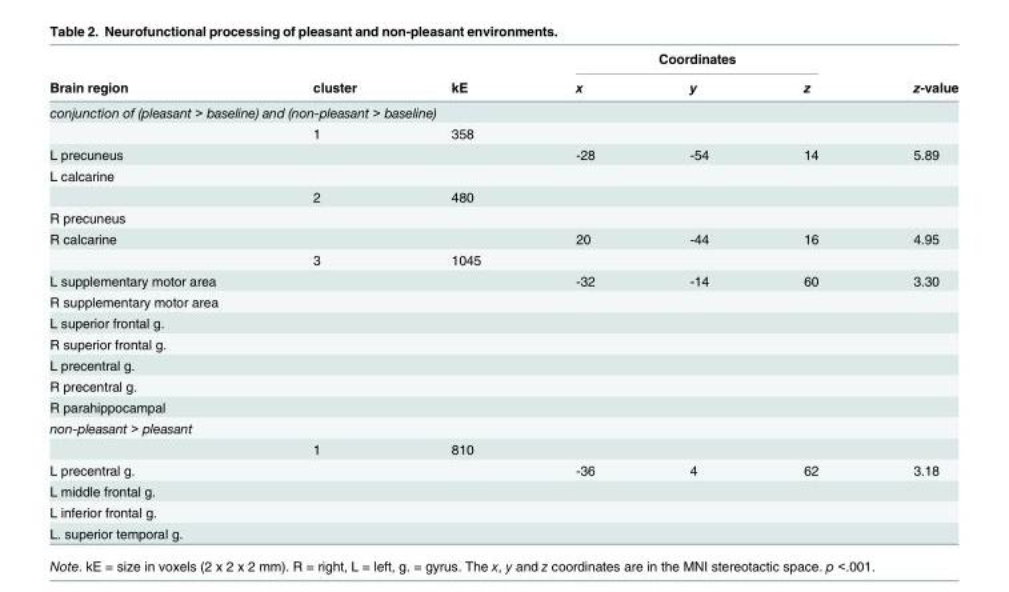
<table><thead><tr><td rowspan="2">Brain region</td><td rowspan="2">cluster</td><td rowspan="2">kE</td><td colspan="3">Coordinates</td><td rowspan="2">z-value</td></tr><tr><td>x</td><td>y</td><td>z</td></tr></thead><tbody><tr><td colspan="7">conjunction of (pleasant &gt; baseline) and (non-pleasant &gt; baseline)</td></tr><tr><td></td><td>1</td><td>358</td><td></td><td></td><td></td><td></td></tr><tr><td>L precuneus</td><td></td><td></td><td>-28</td><td>-54</td><td>14</td><td>5.89</td></tr><tr><td colspan="7">L calcarine</td></tr><tr><td></td><td>2</td><td>480</td><td></td><td></td><td></td><td></td></tr><tr><td colspan="7">R precuneus</td></tr><tr><td rowspan="2">R calcarine</td><td></td><td></td><td>20</td><td>-44</td><td>16</td><td>4.95</td></tr><tr><td>3</td><td>1045</td><td></td><td></td><td></td><td></td></tr><tr><td>L supplementary motor area</td><td></td><td></td><td>-32</td><td>-14</td><td>60</td><td>3.30</td></tr><tr><td colspan="7">R supplementary motor area</td></tr><tr><td colspan="7">L superior frontal g.</td></tr><tr><td colspan="7">R superior frontal g.</td></tr><tr><td colspan="7">L precentral g.</td></tr><tr><td colspan="7">R precentral g.</td></tr><tr><td colspan="7">R parahippocampal</td></tr><tr><td colspan="7">non-pleasant &gt; pleasant</td></tr><tr><td></td><td>1</td><td>810</td><td></td><td></td><td></td><td></td></tr><tr><td>L precentral g.</td><td></td><td></td><td>-36</td><td>4</td><td>62</td><td>3.18</td></tr><tr><td colspan="7">L middle frontal g.</td></tr><tr><td colspan="7">L inferior frontal g.</td></tr><tr><td>L. superior temporal g.</td><td></td><td></td><td></td><td></td><td></td><td></td></tr></tbody></table>